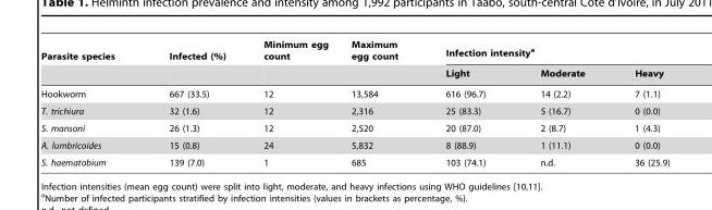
<table><thead><tr><td rowspan="2">Parasite species</td><td rowspan="2">Infected (%)</td><td rowspan="2">Minimum egg count</td><td rowspan="2">Maximum egg count</td><td colspan="3">Infection intensity<sup>a</sup></td></tr><tr><td>Light</td><td>Moderate</td><td>Heavy</td></tr></thead><tbody><tr><td>Hookworm</td><td>667 (33.5)</td><td>12</td><td>13,584</td><td>616 (96.7)</td><td>14 (2.2)</td><td>7 (1.1)</td></tr><tr><td>T. trichiura</td><td>32 (1.6)</td><td>12</td><td>2,316</td><td>25 (83.3)</td><td>5 (16.7)</td><td>0 (0.0)</td></tr><tr><td>S. mansoni</td><td>26 (1.3)</td><td>12</td><td>2,520</td><td>20 (87.0)</td><td>2 (8.7)</td><td>1 (4.3)</td></tr><tr><td>A. lumbricoides</td><td>15 (0.8)</td><td>24</td><td>5,832</td><td>8 (88.9)</td><td>1 (11.1)</td><td>0 (0.0)</td></tr><tr><td>S. haematobium</td><td>139 (7.0)</td><td>1</td><td>685</td><td>103 (74.1)</td><td>n.d.</td><td>36 (25.9)</td></tr></tbody></table>